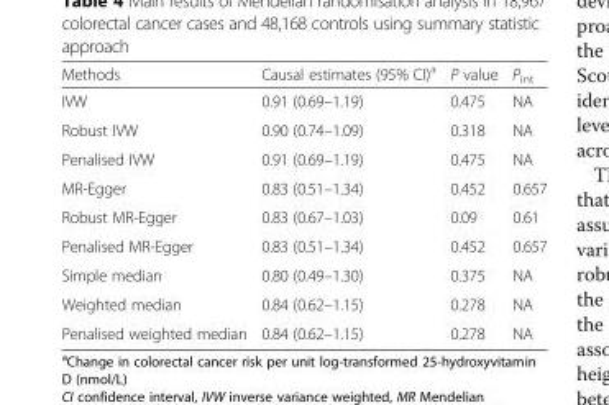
<table><thead><tr><td>Methods</td><td>Causal estimates (95% CI)<sup>a</sup></td><td>P value</td><td>P<sub>int</sub></td></tr></thead><tbody><tr><td>IVW</td><td>0.91 (0.69–1.19)</td><td>0.475</td><td>NA</td></tr><tr><td>Robust IVW</td><td>0.90 (0.74–1.09)</td><td>0.318</td><td>NA</td></tr><tr><td>Penalised IVW</td><td>0.91 (0.69–1.19)</td><td>0.475</td><td>NA</td></tr><tr><td>MR-Egger</td><td>0.83 (0.51–1.34)</td><td>0.452</td><td>0.657</td></tr><tr><td>Robust MR-Egger</td><td>0.83 (0.67–1.03)</td><td>0.09</td><td>0.61</td></tr><tr><td>Penalised MR-Egger</td><td>0.83 (0.51–1.34)</td><td>0.452</td><td>0.657</td></tr><tr><td>Simple median</td><td>0.80 (0.49–1.30)</td><td>0.375</td><td>NA</td></tr><tr><td>Weighted median</td><td>0.84 (0.62–1.15)</td><td>0.278</td><td>NA</td></tr><tr><td>Penalised weighted median</td><td>0.84 (0.62–1.15)</td><td>0.278</td><td>NA</td></tr></tbody></table>